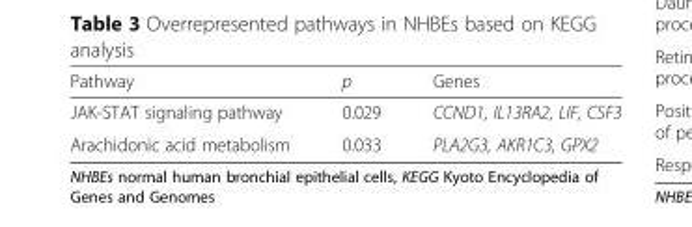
<table><thead><tr><td>Pathway</td><td>p</td><td>Genes</td></tr></thead><tbody><tr><td>JAK-STAT signaling pathway</td><td>0.029</td><td>CCND1, IL13RA2, LIF, CSF3</td></tr><tr><td>Arachidonic acid metabolism</td><td>0.033</td><td>PLA2G3, AKR1C3, GPX2</td></tr></tbody></table>